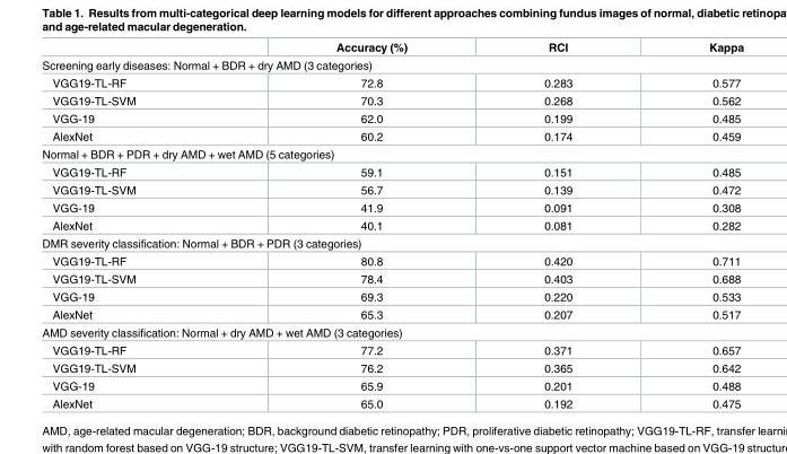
<table><thead><tr><td></td><td>Accuracy (%)</td><td>RCI</td><td>Kappa</td></tr></thead><tbody><tr><td colspan="4">Screening early diseases: Normal + BDR + dry AMD (3 categories)</td></tr><tr><td>VGG19-TL-RF</td><td>72.8</td><td>0.283</td><td>0.577</td></tr><tr><td>VGG19-TL-SVM</td><td>70.3</td><td>0.268</td><td>0.562</td></tr><tr><td>VGG-19</td><td>62.0</td><td>0.199</td><td>0.485</td></tr><tr><td>AlexNet</td><td>60.2</td><td>0.174</td><td>0.459</td></tr><tr><td colspan="4">Normal + BDR + PDR + dry AMD + wet AMD (5 categories)</td></tr><tr><td>VGG19-TL-RF</td><td>59.1</td><td>0.151</td><td>0.485</td></tr><tr><td>VGG19-TL-SVM</td><td>56.7</td><td>0.139</td><td>0.472</td></tr><tr><td>VGG-19</td><td>41.9</td><td>0.091</td><td>0.308</td></tr><tr><td>AlexNet</td><td>40.1</td><td>0.081</td><td>0.282</td></tr><tr><td colspan="4">DMR severity classification: Normal + BDR + PDR (3 categories)</td></tr><tr><td>VGG19-TL-RF</td><td>80.8</td><td>0.420</td><td>0.711</td></tr><tr><td>VGG19-TL-SVM</td><td>78.4</td><td>0.403</td><td>0.688</td></tr><tr><td>VGG-19</td><td>69.3</td><td>0.220</td><td>0.533</td></tr><tr><td>AlexNet</td><td>65.3</td><td>0.207</td><td>0.517</td></tr><tr><td colspan="4">AMD severity classification: Normal + dry AMD + wet AMD (3 categories)</td></tr><tr><td>VGG19-TL-RF</td><td>77.2</td><td>0.371</td><td>0.657</td></tr><tr><td>VGG19-TL-SVM</td><td>76.2</td><td>0.365</td><td>0.642</td></tr><tr><td>VGG-19</td><td>65.9</td><td>0.201</td><td>0.488</td></tr><tr><td>AlexNet</td><td>65.0</td><td>0.192</td><td>0.475</td></tr></tbody></table>